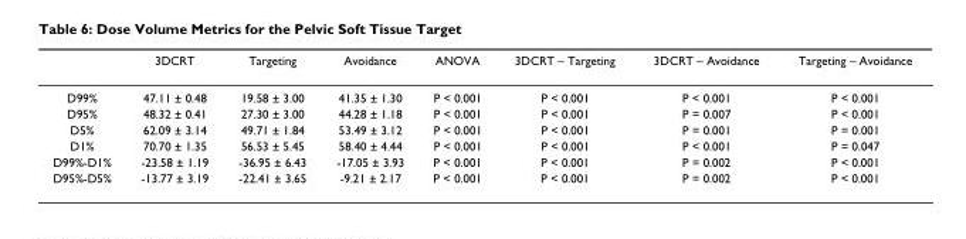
<table><thead><tr><td></td><td>3DCRT</td><td>Targeting</td><td>Avoidance</td><td>ANOVA</td><td>3DCRT – Targeting</td><td>3DCRT – Avoidance</td><td>Targeting – Avoidance</td></tr></thead><tbody><tr><td>D99%</td><td>47.11 ± 0.48</td><td>19.58 ± 3.00</td><td>41.35 ± 1.30</td><td>P &lt; 0.001</td><td>P &lt; 0.001</td><td>P &lt; 0.001</td><td>P &lt; 0.001</td></tr><tr><td>D95%</td><td>48.32 ± 0.41</td><td>27.30 ± 3.00</td><td>44.28 ± 1.18</td><td>P &lt; 0.001</td><td>P &lt; 0.001</td><td>P = 0.007</td><td>P &lt; 0.001</td></tr><tr><td>D5%</td><td>62.09 ± 3.14</td><td>49.71 ± 1.84</td><td>53.49 ± 3.12</td><td>P &lt; 0.001</td><td>P &lt; 0.001</td><td>P = 0.001</td><td>P = 0.001</td></tr><tr><td>D1%</td><td>70.70 ± 1.35</td><td>56.53 ± 5.45</td><td>58.40 ± 4.44</td><td>P &lt; 0.001</td><td>P &lt; 0.001</td><td>P &lt; 0.001</td><td>P = 0.047</td></tr><tr><td>D99%-D1%</td><td>-23.58 ± 1.19</td><td>-36.95 ± 6.43</td><td>-17.05 ± 3.93</td><td>P &lt; 0.001</td><td>P &lt; 0.001</td><td>P = 0.002</td><td>P &lt; 0.001</td></tr><tr><td>D95%-D5%</td><td>-13.77 ± 3.19</td><td>-22.41 ± 3.65</td><td>-9.21 ± 2.17</td><td>P &lt; 0.001</td><td>P &lt; 0.001</td><td>P = 0.002</td><td>P &lt; 0.001</td></tr></tbody></table>